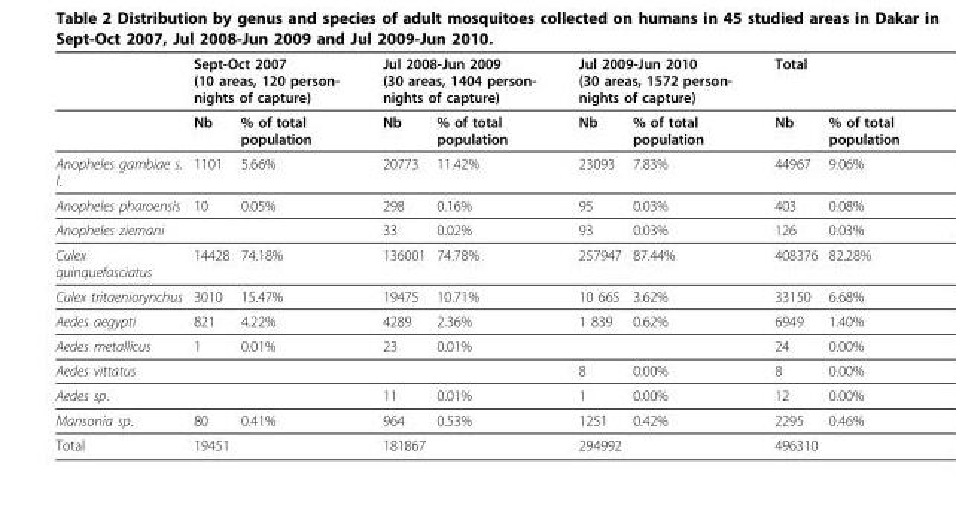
<table><thead><tr><td rowspan="2"></td><td colspan="2">Sept-Oct 2007 (10 areas, 120 person- nights of capture)</td><td colspan="2">Jul 2008-Jun 2009 (30 areas, 1404 person- nights of capture)</td><td colspan="2">Jul 2009-Jun 2010 (30 areas, 1572 person- nights of capture)</td><td colspan="2">Total</td></tr><tr><td>Nb</td><td>% of total population</td><td>Nb</td><td>% of total population</td><td>Nb</td><td>% of total population</td><td>Nb</td><td>% of total population</td></tr></thead><tbody><tr><td>Anopheles gambiae s. l.</td><td>1101</td><td>5.66%</td><td>20773</td><td>11.42%</td><td>23093</td><td>7.83%</td><td>44967</td><td>9.06%</td></tr><tr><td>Anopheles pharoensis</td><td>10</td><td>0.05%</td><td>298</td><td>0.16%</td><td>95</td><td>0.03%</td><td>403</td><td>0.08%</td></tr><tr><td>Anopheles ziemani</td><td></td><td></td><td>33</td><td>0.02%</td><td>93</td><td>0.03%</td><td>126</td><td>0.03%</td></tr><tr><td>Culex quinquefasciatus</td><td>14428</td><td>74.18%</td><td>136001</td><td>74.78%</td><td>257947</td><td>87.44%</td><td>408376</td><td>82.28%</td></tr><tr><td>Culex tritaeniorynchus</td><td>3010</td><td>15.47%</td><td>19475</td><td>10.71%</td><td>10 665</td><td>3.62%</td><td>33150</td><td>6.68%</td></tr><tr><td>Aedes aegypti</td><td>821</td><td>4.22%</td><td>4289</td><td>2.36%</td><td>1 839</td><td>0.62%</td><td>6949</td><td>1.40%</td></tr><tr><td>Aedes metallicus</td><td>1</td><td>0.01%</td><td>23</td><td>0.01%</td><td></td><td></td><td>24</td><td>0.00%</td></tr><tr><td>Aedes vittatus</td><td></td><td></td><td></td><td></td><td>8</td><td>0.00%</td><td>8</td><td>0.00%</td></tr><tr><td>Aedes sp.</td><td></td><td></td><td>11</td><td>0.01%</td><td>1</td><td>0.00%</td><td>12</td><td>0.00%</td></tr><tr><td>Mansonia sp.</td><td>80</td><td>0.41%</td><td>964</td><td>0.53%</td><td>1251</td><td>0.42%</td><td>2295</td><td>0.46%</td></tr><tr><td>Total</td><td>19451</td><td></td><td>181867</td><td></td><td>294992</td><td></td><td>496310</td><td></td></tr></tbody></table>